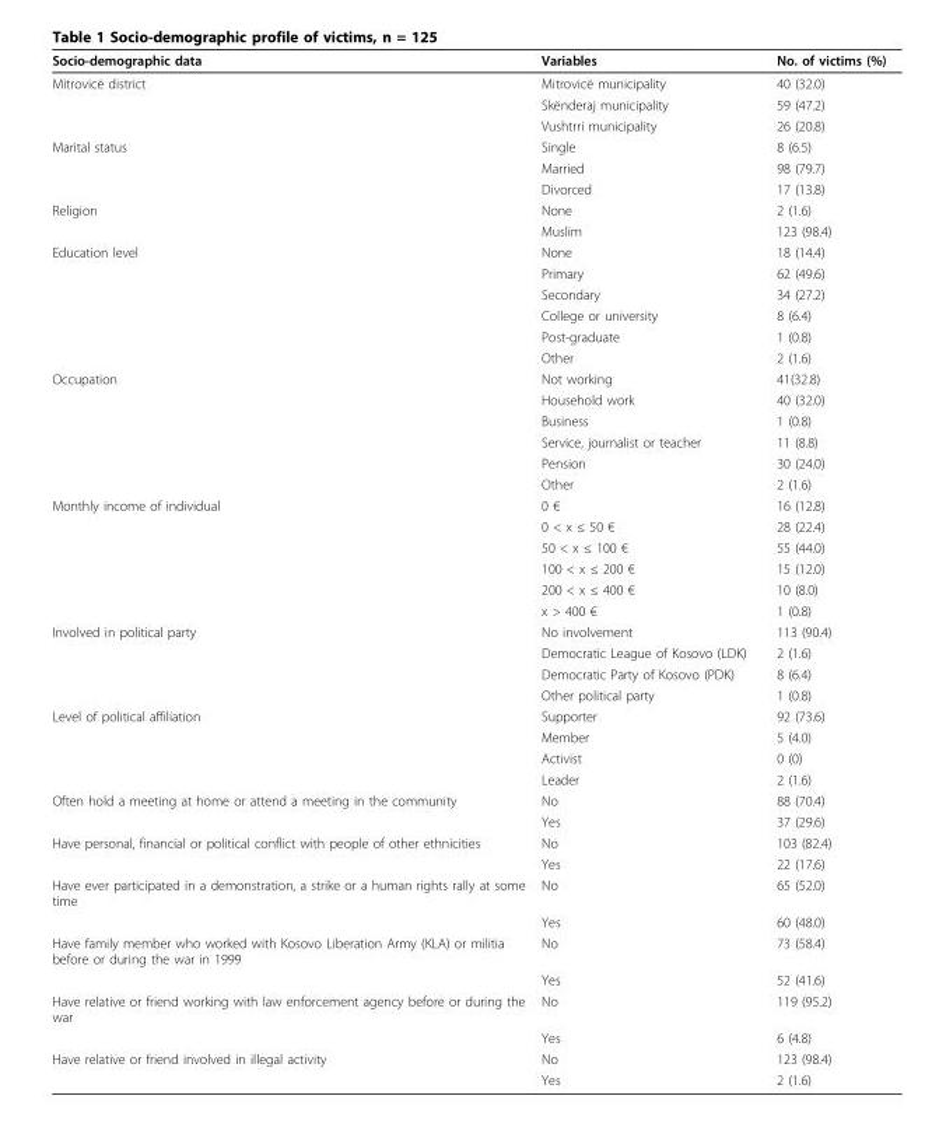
<table><thead><tr><td>Socio-demographic data</td><td>Variables</td><td>No. of victims (%)</td></tr></thead><tbody><tr><td rowspan="3">Mitrovicë district</td><td>Mitrovicë municipality</td><td>40 (32.0)</td></tr><tr><td>Skënderaj municipality</td><td>59 (47.2)</td></tr><tr><td>Vushtrri municipality</td><td>26 (20.8)</td></tr><tr><td rowspan="3">Marital status</td><td>Single</td><td>8 (6.5)</td></tr><tr><td>Married</td><td>98 (79.7)</td></tr><tr><td>Divorced</td><td>17 (13.8)</td></tr><tr><td rowspan="2">Religion</td><td>None</td><td>2 (1.6)</td></tr><tr><td>Muslim</td><td>123 (98.4)</td></tr><tr><td rowspan="6">Education level</td><td>None</td><td>18 (14.4)</td></tr><tr><td>Primary</td><td>62 (49.6)</td></tr><tr><td>Secondary</td><td>34 (27.2)</td></tr><tr><td>College or university</td><td>8 (6.4)</td></tr><tr><td>Post-graduate</td><td>1 (0.8)</td></tr><tr><td>Other</td><td>2 (1.6)</td></tr><tr><td rowspan="6">Occupation</td><td>Not working</td><td>41(32.8)</td></tr><tr><td>Household work</td><td>40 (32.0)</td></tr><tr><td>Business</td><td>1 (0.8)</td></tr><tr><td>Service, journalist or teacher</td><td>11 (8.8)</td></tr><tr><td>Pension</td><td>30 (24.0)</td></tr><tr><td>Other</td><td>2 (1.6)</td></tr><tr><td rowspan="6">Monthly income of individual</td><td>0 €</td><td>16 (12.8)</td></tr><tr><td>0 &lt; x ≤ 50 €</td><td>28 (22.4)</td></tr><tr><td>50 &lt; x ≤ 100 €</td><td>55 (44.0)</td></tr><tr><td>100 &lt; x ≤ 200 €</td><td>15 (12.0)</td></tr><tr><td>200 &lt; x ≤ 400 €</td><td>10 (8.0)</td></tr><tr><td>x &gt; 400 €</td><td>1 (0.8)</td></tr><tr><td rowspan="4">Involved in political party</td><td>No involvement</td><td>113 (90.4)</td></tr><tr><td>Democratic League of Kosovo (LDK)</td><td>2 (1.6)</td></tr><tr><td>Democratic Party of Kosovo (PDK)</td><td>8 (6.4)</td></tr><tr><td>Other political party</td><td>1 (0.8)</td></tr><tr><td rowspan="4">Level of political affiliation</td><td>Supporter</td><td>92 (73.6)</td></tr><tr><td>Member</td><td>5 (4.0)</td></tr><tr><td>Activist</td><td>0 (0)</td></tr><tr><td>Leader</td><td>2 (1.6)</td></tr><tr><td rowspan="2">Often hold a meeting at home or attend a meeting in the community</td><td>No</td><td>88 (70.4)</td></tr><tr><td>Yes</td><td>37 (29.6)</td></tr><tr><td rowspan="2">Have personal, financial or political conflict with people of other ethnicities</td><td>No</td><td>103 (82.4)</td></tr><tr><td>Yes</td><td>22 (17.6)</td></tr><tr><td rowspan="2">Have ever participated in a demonstration, a strike or a human rights rally at some time</td><td>No</td><td>65 (52.0)</td></tr><tr><td>Yes</td><td>60 (48.0)</td></tr><tr><td rowspan="2">Have family member who worked with Kosovo Liberation Army (KLA) or militia before or during the war in 1999</td><td>No</td><td>73 (58.4)</td></tr><tr><td>Yes</td><td>52 (41.6)</td></tr><tr><td rowspan="2">Have relative or friend working with law enforcement agency before or during the war</td><td>No</td><td>119 (95.2)</td></tr><tr><td>Yes</td><td>6 (4.8)</td></tr><tr><td rowspan="2">Have relative or friend involved in illegal activity</td><td>No</td><td>123 (98.4)</td></tr><tr><td>Yes</td><td>2 (1.6)</td></tr></tbody></table>